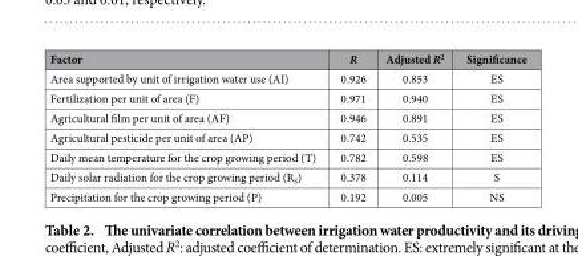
<table><thead><tr><td>Factor</td><td>R</td><td>Adjusted R<sup>2</sup></td><td>Significance</td></tr></thead><tbody><tr><td>Area supported by unit of irrigation water use (AI)</td><td>0.926</td><td>0.853</td><td>ES</td></tr><tr><td>Fertilization per unit of area (F)</td><td>0.971</td><td>0.940</td><td>ES</td></tr><tr><td>Agricultural film per unit of area (AF)</td><td>0.946</td><td>0.891</td><td>ES</td></tr><tr><td>Agricultural pesticide per unit of area (AP)</td><td>0.742</td><td>0.535</td><td>ES</td></tr><tr><td>Daily mean temperature for the crop growing period (T)</td><td>0.782</td><td>0.598</td><td>ES</td></tr><tr><td>Daily solar radiation for the crop growing period (R<sub>S</sub>)</td><td>0.378</td><td>0.114</td><td>S</td></tr><tr><td>Precipitation for the crop growing period (P)</td><td>0.192</td><td>0.005</td><td>NS</td></tr></tbody></table>